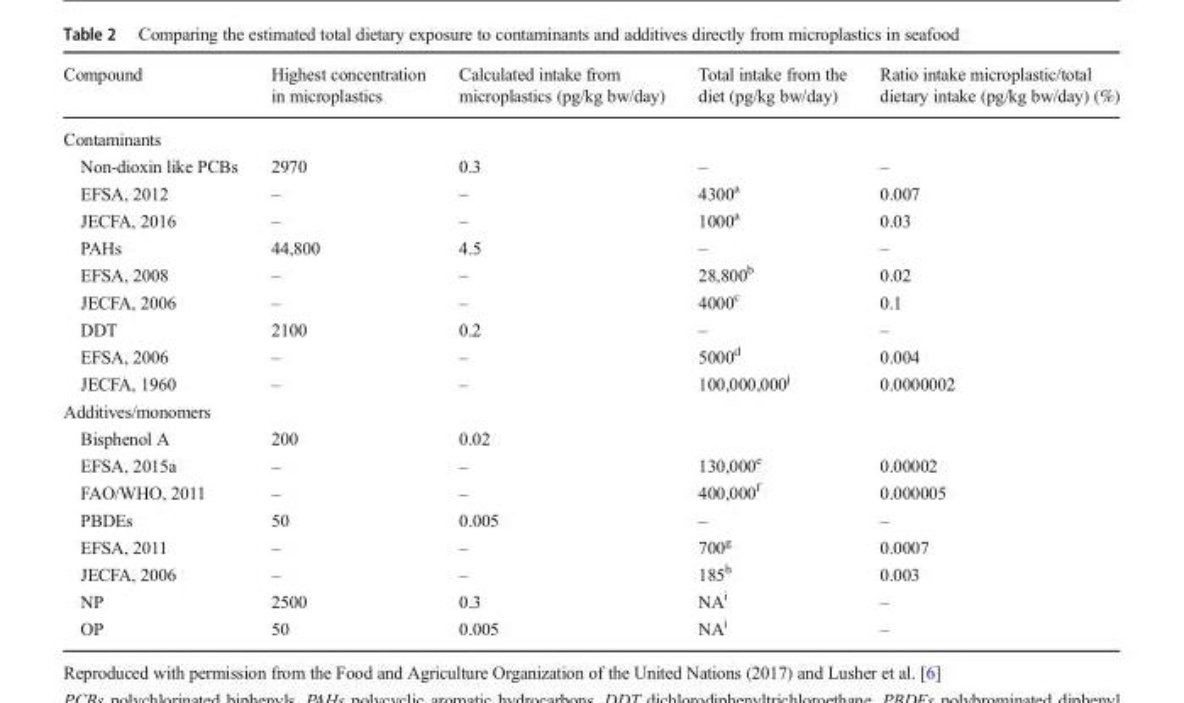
<table><thead><tr><td>Compound</td><td>Highest concentration in microplastics</td><td>Calculated intake from microplastics (pg/kg bw/day)</td><td>Total intake from the diet (pg/kg bw/day)</td><td>Ratio intake microplastic/total dietary intake (pg/kg bw/day) (%)</td></tr></thead><tbody><tr><td colspan="5">Contaminants</td></tr><tr><td>Non-dioxin like PCBs</td><td>2970</td><td>0.3</td><td>–</td><td>–</td></tr><tr><td>EFSA, 2012</td><td>–</td><td>–</td><td>4300<sup>a</sup></td><td>0.007</td></tr><tr><td>JECFA, 2016</td><td>–</td><td>–</td><td>1000<sup>a</sup></td><td>0.03</td></tr><tr><td>PAHs</td><td>44,800</td><td>4.5</td><td>–</td><td>–</td></tr><tr><td>EFSA, 2008</td><td>–</td><td>–</td><td>28,800<sup>b</sup></td><td>0.02</td></tr><tr><td>JECFA, 2006</td><td>–</td><td>–</td><td>4000<sup>c</sup></td><td>0.1</td></tr><tr><td>DDT</td><td>2100</td><td>0.2</td><td>–</td><td>–</td></tr><tr><td>EFSA, 2006</td><td>–</td><td>–</td><td>5000<sup>d</sup></td><td>0.004</td></tr><tr><td>JECFA, 1960</td><td>–</td><td>–</td><td>100,000,000<sup>j</sup></td><td>0.0000002</td></tr><tr><td colspan="5">Additives/monomers</td></tr><tr><td>Bisphenol A</td><td>200</td><td>0.02</td><td></td><td></td></tr><tr><td>EFSA, 2015a</td><td>–</td><td>–</td><td>130,000<sup>e</sup></td><td>0.00002</td></tr><tr><td>FAO/WHO, 2011</td><td>–</td><td>–</td><td>400,000<sup>f</sup></td><td>0.000005</td></tr><tr><td>PBDEs</td><td>50</td><td>0.005</td><td>–</td><td>–</td></tr><tr><td>EFSA, 2011</td><td>–</td><td>–</td><td>700<sup>g</sup></td><td>0.0007</td></tr><tr><td>JECFA, 2006</td><td>–</td><td>–</td><td>185<sup>h</sup></td><td>0.003</td></tr><tr><td>NP</td><td>2500</td><td>0.3</td><td>NA<sup>i</sup></td><td>–</td></tr><tr><td>OP</td><td>50</td><td>0.005</td><td>NA<sup>i</sup></td><td>–</td></tr></tbody></table>